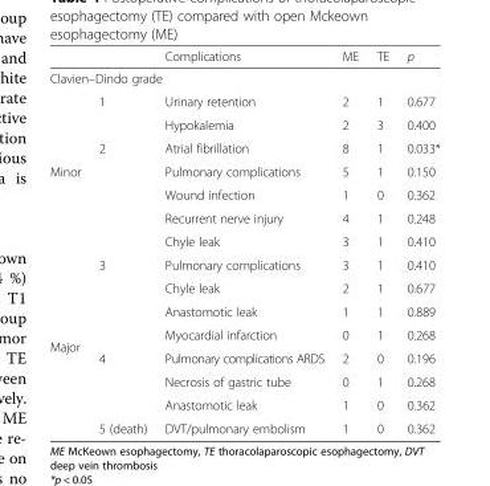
<table><thead><tr><td></td><td></td><td>Complications</td><td>ME</td><td>TE</td><td>p</td></tr></thead><tbody><tr><td colspan="6">Clavien–Dindo grade</td></tr><tr><td rowspan="7">Minor</td><td>1</td><td>Urinary retention</td><td>2</td><td>1</td><td>0.677</td></tr><tr><td></td><td>Hypokalemia</td><td>2</td><td>3</td><td>0.400</td></tr><tr><td>2</td><td>Atrial fibrillation</td><td>8</td><td>1</td><td>0.033*</td></tr><tr><td></td><td>Pulmonary complications</td><td>5</td><td>1</td><td>0.150</td></tr><tr><td></td><td>Wound infection</td><td>1</td><td>0</td><td>0.362</td></tr><tr><td></td><td>Recurrent nerve injury</td><td>4</td><td>1</td><td>0.248</td></tr><tr><td></td><td>Chyle leak</td><td>3</td><td>1</td><td>0.410</td></tr><tr><td rowspan="8">Major</td><td>3</td><td>Pulmonary complications</td><td>3</td><td>1</td><td>0.410</td></tr><tr><td></td><td>Chyle leak</td><td>2</td><td>1</td><td>0.677</td></tr><tr><td></td><td>Anastomotic leak</td><td>1</td><td>1</td><td>0.889</td></tr><tr><td></td><td>Myocardial infarction</td><td>0</td><td>1</td><td>0.268</td></tr><tr><td>4</td><td>Pulmonary complications ARDS</td><td>2</td><td>0</td><td>0.196</td></tr><tr><td></td><td>Necrosis of gastric tube</td><td>0</td><td>1</td><td>0.268</td></tr><tr><td></td><td>Anastomotic leak</td><td>1</td><td>0</td><td>0.362</td></tr><tr><td>5 (death)</td><td>DVT/pulmonary embolism</td><td>1</td><td>0</td><td>0.362</td></tr></tbody></table>